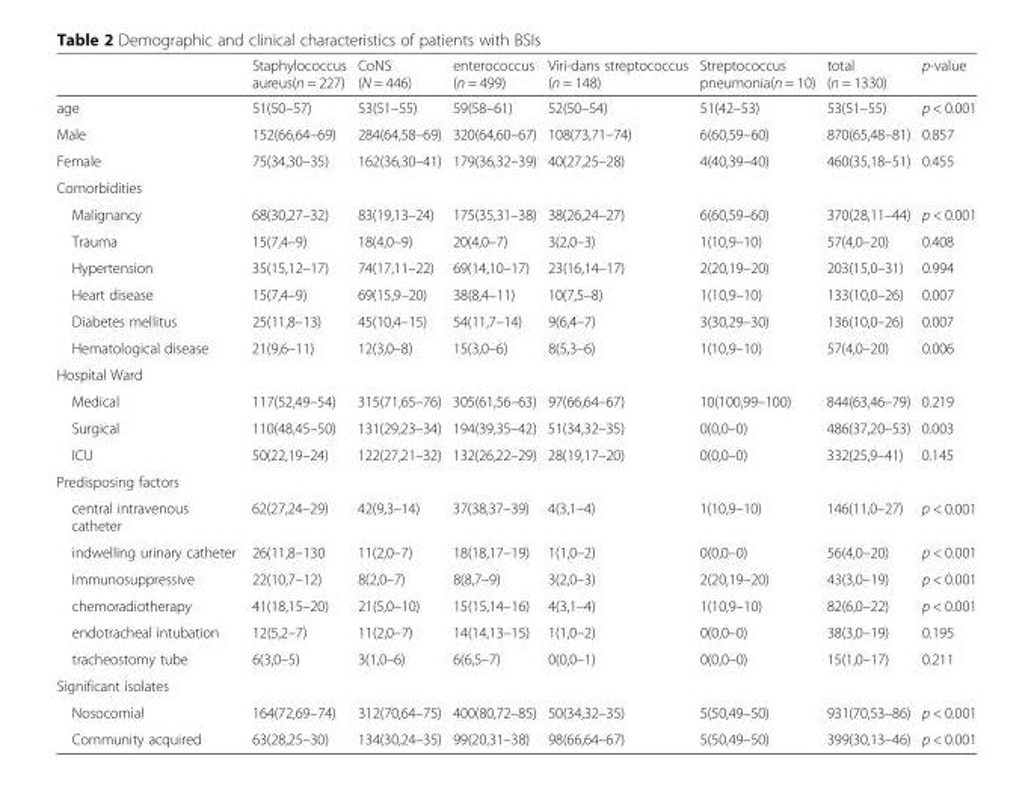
<table><thead><tr><td></td><td>Staphylococcus aureus(n = 227)</td><td>CoNS (N = 446)</td><td>enterococcus (n = 499)</td><td>Viri-dans streptococcus (n = 148)</td><td>Streptococcus pneumonia(n = 10)</td><td>total (n = 1330)</td><td>p-value</td></tr></thead><tbody><tr><td>age</td><td>51(50–57)</td><td>53(51–55)</td><td>59(58–61)</td><td>52(50–54)</td><td>51(42–53)</td><td>53(51–55)</td><td>p &lt; 0.001</td></tr><tr><td>Male</td><td>152(66,64–69)</td><td>284(64,58–69)</td><td>320(64,60–67)</td><td>108(73,71–74)</td><td>6(60,59–60)</td><td>870(65,48–81)</td><td>0.857</td></tr><tr><td>Female</td><td>75(34,30–35)</td><td>162(36,30–41)</td><td>179(36,32–39)</td><td>40(27,25–28)</td><td>4(40,39–40)</td><td>460(35,18–51)</td><td>0.455</td></tr><tr><td colspan="8">Comorbidities</td></tr><tr><td>Malignancy</td><td>68(30,27–32)</td><td>83(19,13–24)</td><td>175(35,31–38)</td><td>38(26,24–27)</td><td>6(60,59–60)</td><td>370(28,11–44)</td><td>p &lt; 0.001</td></tr><tr><td>Trauma</td><td>15(7,4–9)</td><td>18(4,0–9)</td><td>20(4,0–7)</td><td>3(2,0–3)</td><td>1(10,9–10)</td><td>57(4,0–20)</td><td>0.408</td></tr><tr><td>Hypertension</td><td>35(15,12–17)</td><td>74(17,11–22)</td><td>69(14,10–17)</td><td>23(16,14–17)</td><td>2(20,19–20)</td><td>203(15,0–31)</td><td>0.994</td></tr><tr><td>Heart disease</td><td>15(7,4–9)</td><td>69(15,9–20)</td><td>38(8,4–11)</td><td>10(7,5–8)</td><td>1(10,9–10)</td><td>133(10,0–26)</td><td>0.007</td></tr><tr><td>Diabetes mellitus</td><td>25(11,8–13)</td><td>45(10,4–15)</td><td>54(11,7–14)</td><td>9(6,4–7)</td><td>3(30,29–30)</td><td>136(10,0–26)</td><td>0.007</td></tr><tr><td>Hematological disease</td><td>21(9,6–11)</td><td>12(3,0–8)</td><td>15(3,0–6)</td><td>8(5,3–6)</td><td>1(10,9–10)</td><td>57(4,0–20)</td><td>0.006</td></tr><tr><td colspan="8">Hospital Ward</td></tr><tr><td>Medical</td><td>117(52,49–54)</td><td>315(71,65–76)</td><td>305(61,56–63)</td><td>97(66,64–67)</td><td>10(100,99–100)</td><td>844(63,46–79)</td><td>0.219</td></tr><tr><td>Surgical</td><td>110(48,45–50)</td><td>131(29,23–34)</td><td>194(39,35–42)</td><td>51(34,32–35)</td><td>0(0,0–0)</td><td>486(37,20–53)</td><td>0.003</td></tr><tr><td>ICU</td><td>50(22,19–24)</td><td>122(27,21–32)</td><td>132(26,22–29)</td><td>28(19,17–20)</td><td>0(0,0–0)</td><td>332(25,9–41)</td><td>0.145</td></tr><tr><td colspan="8">Predisposing factors</td></tr><tr><td>central intravenous catheter</td><td>62(27,24–29)</td><td>42(9,3–14)</td><td>37(38,37–39)</td><td>4(3,1–4)</td><td>1(10,9–10)</td><td>146(11,0–27)</td><td>p &lt; 0.001</td></tr><tr><td>indwelling urinary catheter</td><td>26(11,8–130</td><td>11(2,0–7)</td><td>18(18,17–19)</td><td>1(1,0–2)</td><td>0(0,0–0)</td><td>56(4,0–20)</td><td>p &lt; 0.001</td></tr><tr><td>Immunosuppressive</td><td>22(10,7–12)</td><td>8(2,0–7)</td><td>8(8,7–9)</td><td>3(2,0–3)</td><td>2(20,19–20)</td><td>43(3,0–19)</td><td>p &lt; 0.001</td></tr><tr><td>chemoradiotherapy</td><td>41(18,15–20)</td><td>21(5,0–10)</td><td>15(15,14–16)</td><td>4(3,1–4)</td><td>1(10,9–10)</td><td>82(6,0–22)</td><td>p &lt; 0.001</td></tr><tr><td>endotracheal intubation</td><td>12(5,2–7)</td><td>11(2,0–7)</td><td>14(14,13–15)</td><td>1(1,0–2)</td><td>0(0,0–0)</td><td>38(3,0–19)</td><td>0.195</td></tr><tr><td>tracheostomy tube</td><td>6(3,0–5)</td><td>3(1,0–6)</td><td>6(6,5–7)</td><td>0(0,0–1)</td><td>0(0,0–0)</td><td>15(1,0–17)</td><td>0.211</td></tr><tr><td colspan="8">Significant isolates</td></tr><tr><td>Nosocomial</td><td>164(72,69–74)</td><td>312(70,64–75)</td><td>400(80,72–85)</td><td>50(34,32–35)</td><td>5(50,49–50)</td><td>931(70,53–86)</td><td>p &lt; 0.001</td></tr><tr><td>Community acquired</td><td>63(28,25–30)</td><td>134(30,24–35)</td><td>99(20,31–38)</td><td>98(66,64–67)</td><td>5(50,49–50)</td><td>399(30,13–46)</td><td>p &lt; 0.001</td></tr></tbody></table>